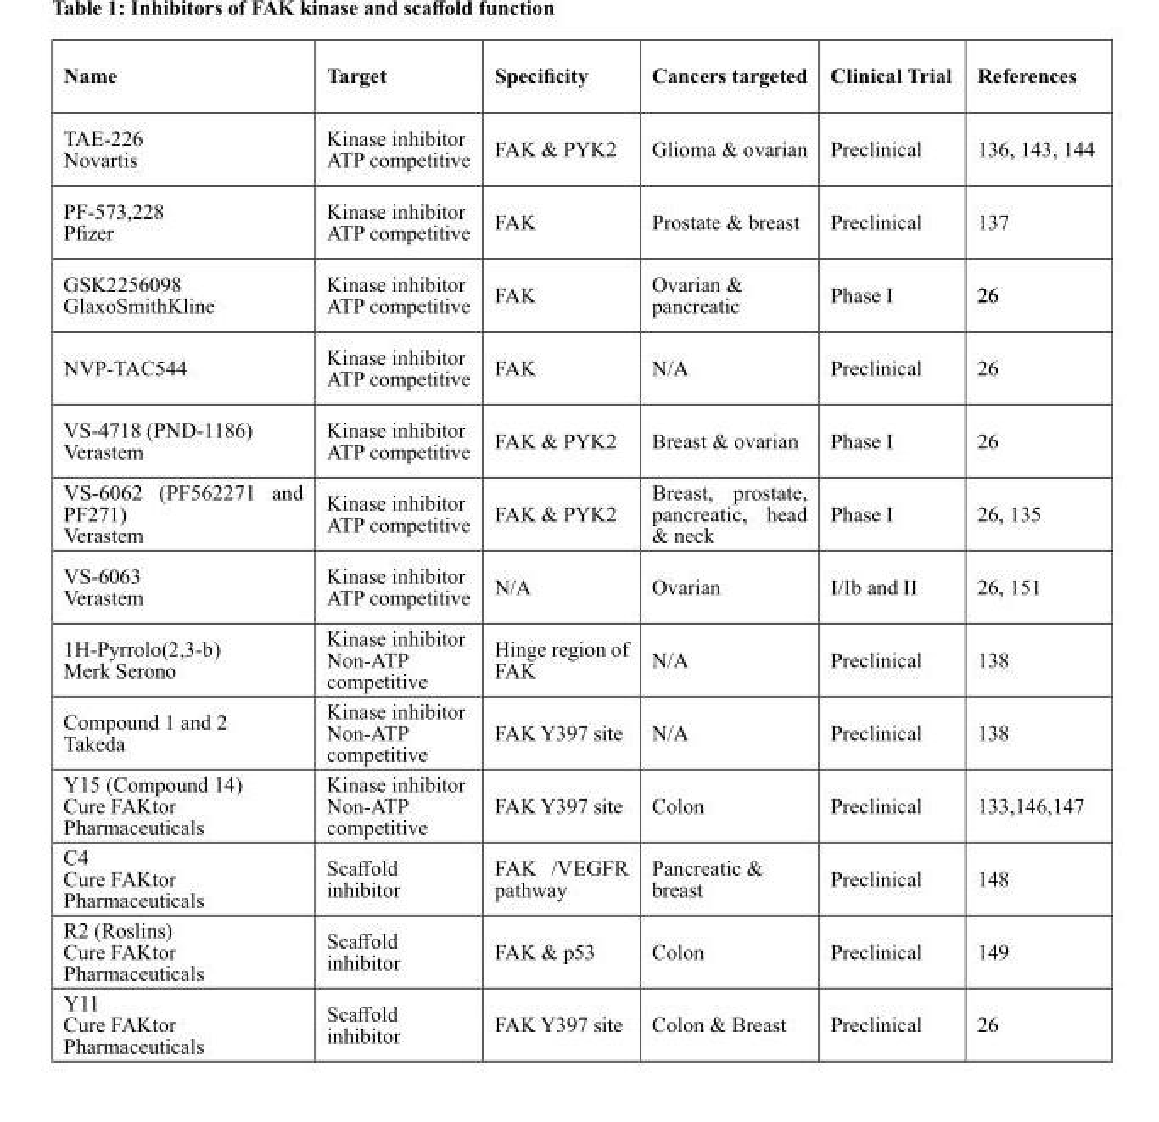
<table><thead><tr><td>Name</td><td>Target</td><td>Specificity</td><td>Cancers targeted</td><td>Clinical Trial</td><td>References</td></tr></thead><tbody><tr><td>TAE-226 Novartis</td><td>Kinase inhibitor ATP competitive</td><td>FAK &amp; PYK2</td><td>Glioma &amp; ovarian</td><td>Preclinical</td><td>136, 143, 144</td></tr><tr><td>PF-573,228 Pfizer</td><td>Kinase inhibitor ATP competitive</td><td>FAK</td><td>Prostate &amp; breast</td><td>Preclinical</td><td>137</td></tr><tr><td>GSK2256098 GlaxoSmithKline</td><td>Kinase inhibitor ATP competitive</td><td>FAK</td><td>Ovarian &amp; pancreatic</td><td>Phase I</td><td>26</td></tr><tr><td>NVP-TAC544</td><td>Kinase inhibitor ATP competitive</td><td>FAK</td><td>N/A</td><td>Preclinical</td><td>26</td></tr><tr><td>VS-4718 (PND-1186) Verastem</td><td>Kinase inhibitor ATP competitive</td><td>FAK &amp; PYK2</td><td>Breast &amp; ovarian</td><td>Phase I</td><td>26</td></tr><tr><td>VS-6062 (PF562271 and PF271) Verastem</td><td>Kinase inhibitor ATP competitive</td><td>FAK &amp; PYK2</td><td>Breast, prostate, pancreatic, head &amp; neck</td><td>Phase I</td><td>26, 135</td></tr><tr><td>VS-6063 Verastem</td><td>Kinase inhibitor ATP competitive</td><td>N/A</td><td>Ovarian</td><td>I/Ib and II</td><td>26, 151</td></tr><tr><td>1H-Pyrrolo(2,3-b) Merk Serono</td><td>Kinase inhibitor Non-ATP competitive</td><td>Hinge region of FAK</td><td>N/A</td><td>Preclinical</td><td>138</td></tr><tr><td>Compound 1 and 2 Takeda</td><td>Kinase inhibitor Non-ATP competitive</td><td>FAK Y397 site</td><td>N/A</td><td>Preclinical</td><td>138</td></tr><tr><td>Y15 (Compound 14) Cure FAKtor Pharmaceuticals</td><td>Kinase inhibitor Non-ATP competitive</td><td>FAK Y397 site</td><td>Colon</td><td>Preclinical</td><td>133,146,147</td></tr><tr><td>C4 Cure FAKtor Pharmaceuticals</td><td>Scaffold inhibitor</td><td>FAK /VEGFR pathway</td><td>Pancreatic &amp; breast</td><td>Preclinical</td><td>148</td></tr><tr><td>R2 (Roslins) Cure FAKtor Pharmaceuticals</td><td>Scaffold inhibitor</td><td>FAK &amp; p53</td><td>Colon</td><td>Preclinical</td><td>149</td></tr><tr><td>Y11 Cure FAKtor Pharmaceuticals</td><td>Scaffold inhibitor</td><td>FAK Y397 site</td><td>Colon &amp; Breast</td><td>Preclinical</td><td>26</td></tr></tbody></table>